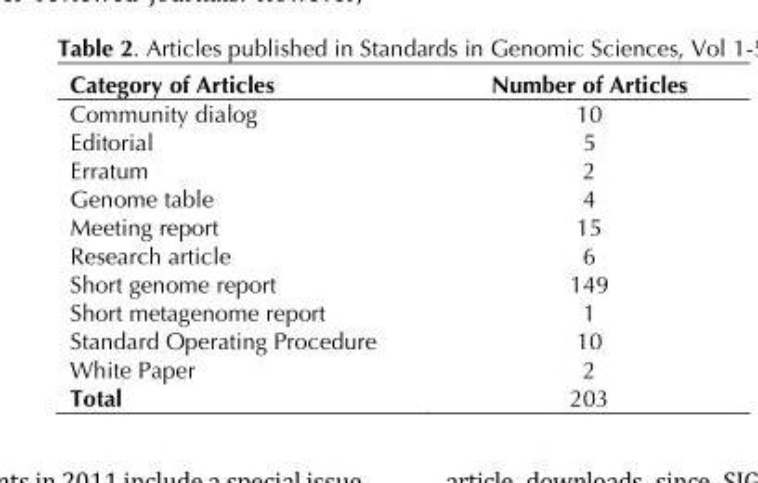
<table><thead><tr><td>Category of Articles</td><td>Number of Articles</td></tr></thead><tbody><tr><td>Community dialog</td><td>10</td></tr><tr><td>Editorial</td><td>5</td></tr><tr><td>Erratum</td><td>2</td></tr><tr><td>Genome table</td><td>4</td></tr><tr><td>Meeting report</td><td>15</td></tr><tr><td>Research article</td><td>6</td></tr><tr><td>Short genome report</td><td>149</td></tr><tr><td>Short metagenome report</td><td>1</td></tr><tr><td>Standard Operating Procedure</td><td>10</td></tr><tr><td>White Paper</td><td>2</td></tr><tr><td>Total</td><td>203</td></tr></tbody></table>